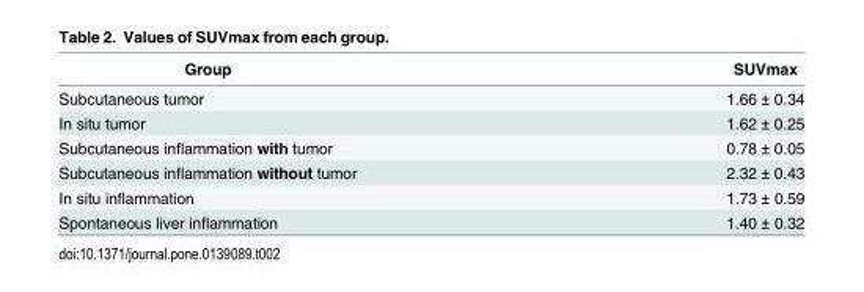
<table><thead><tr><td>Group</td><td>SUVmax</td></tr></thead><tbody><tr><td>Subcutaneous tumor</td><td>1.66 ± 0.34</td></tr><tr><td>In situ tumor</td><td>1.62 ± 0.25</td></tr><tr><td>Subcutaneous inflammation with tumor</td><td>0.78 ± 0.05</td></tr><tr><td>Subcutaneous inflammation without tumor</td><td>2.32 ± 0.43</td></tr><tr><td>In situ inflammation</td><td>1.73 ± 0.59</td></tr><tr><td>Spontaneous liver inflammation</td><td>1.40 ± 0.32</td></tr></tbody></table>